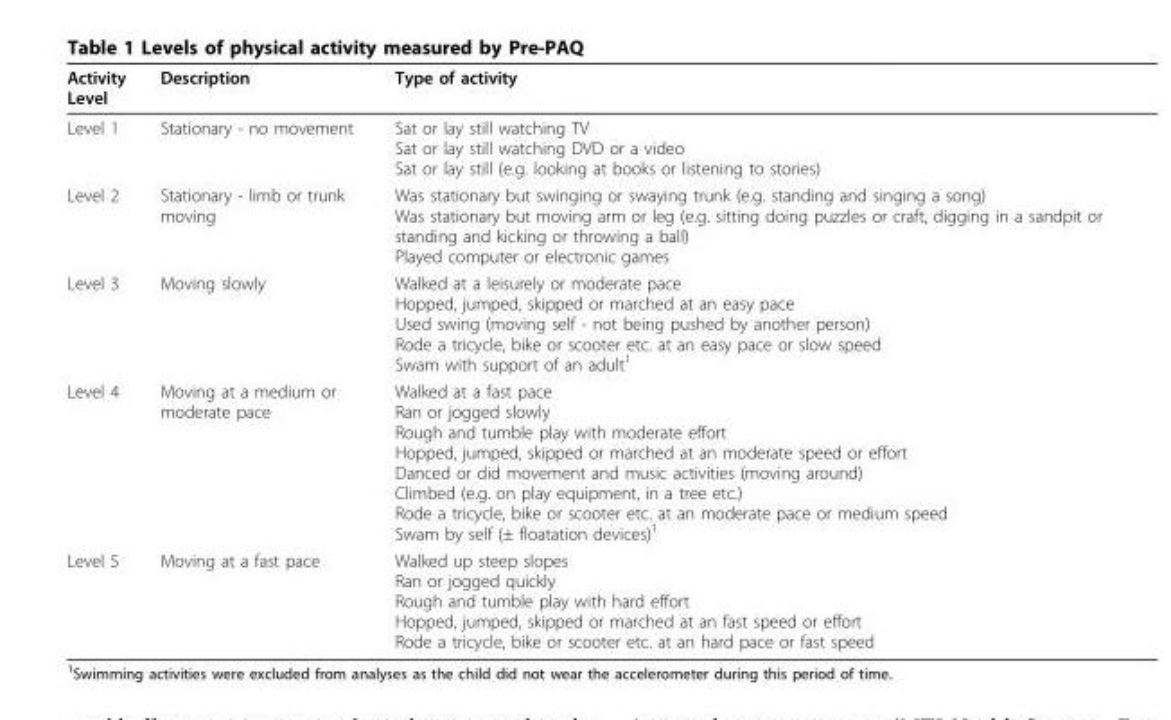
<table><thead><tr><td>Activity Level</td><td>Description</td><td>Type of activity</td></tr></thead><tbody><tr><td>Level 1</td><td>Stationary - no movement</td><td>Sat or lay still watching TV Sat or lay still watching DVD or a video Sat or lay still (e.g. looking at books or listening to stories)</td></tr><tr><td>Level 2</td><td>Stationary - limb or trunk moving</td><td>Was stationary but swinging or swaying trunk (e.g. standing and singing a song) Was stationary but moving arm or leg (e.g. sitting doing puzzles or craft, digging in a sandpit or standing and kicking or throwing a ball) Played computer or electronic games</td></tr><tr><td>Level 3</td><td>Moving slowly</td><td>Walked at a leisurely or moderate pace Hopped, jumped, skipped or marched at an easy pace Used swing (moving self - not being pushed by another person) Rode a tricycle, bike or scooter etc. at an easy pace or slow speed Swam with support of an adult<sup>1</sup></td></tr><tr><td>Level 4</td><td>Moving at a medium or moderate pace</td><td>Walked at a fast pace Ran or jogged slowly Rough and tumble play with moderate effort Hopped, jumped, skipped or marched at an moderate speed or effort Danced or did movement and music activities (moving around) Climbed (e.g. on play equipment, in a tree etc.) Rode a tricycle, bike or scooter etc. at an moderate pace or medium speed Swam by self (± floatation devices)<sup>1</sup></td></tr><tr><td>Level 5</td><td>Moving at a fast pace</td><td>Walked up steep slopes Ran or jogged quickly Rough and tumble play with hard effort Hopped, jumped, skipped or marched at an fast speed or effort Rode a tricycle, bike or scooter etc. at an hard pace or fast speed</td></tr></tbody></table>